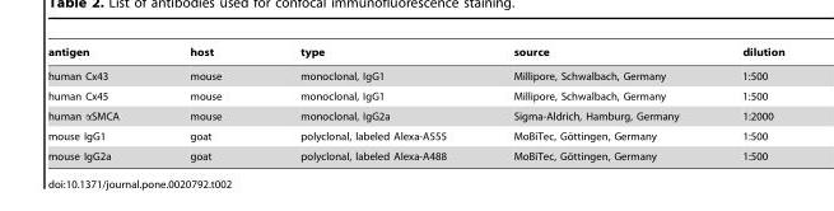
<table><thead><tr><td>antigen</td><td>host</td><td>type</td><td>source</td><td>dilution</td></tr></thead><tbody><tr><td>human Cx43</td><td>mouse</td><td>monoclonal, IgG1</td><td>Millipore, Schwalbach, Germany</td><td>1:500</td></tr><tr><td>human Cx45</td><td>mouse</td><td>monoclonal, IgG1</td><td>Millipore, Schwalbach, Germany</td><td>1:500</td></tr><tr><td>human αSMCA</td><td>mouse</td><td>monoclonal, IgG2a</td><td>Sigma-Aldrich, Hamburg, Germany</td><td>1:2000</td></tr><tr><td>mouse IgG1</td><td>goat</td><td>polyclonal, labeled Alexa-A555</td><td>MoBiTec, Go¨ttingen, Germany</td><td>1:500</td></tr><tr><td>mouse IgG2a</td><td>goat</td><td>polyclonal, labeled Alexa-A488</td><td>MoBiTec, Go¨ttingen, Germany</td><td>1:500</td></tr></tbody></table>